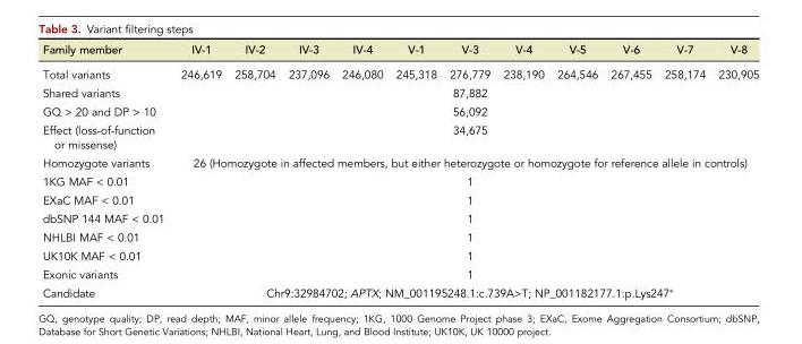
<table><thead><tr><td>Family member</td><td>IV-1</td><td>IV-2</td><td>IV-3</td><td>IV-4</td><td>V-1</td><td>V-3</td><td>V-4</td><td>V-5</td><td>V-6</td><td>V-7</td><td>V-8</td></tr></thead><tbody><tr><td>Total variants</td><td>246,619</td><td>258,704</td><td>237,096</td><td>246,080</td><td>245,318</td><td>276,779</td><td>238,190</td><td>264,546</td><td>267,455</td><td>258,174</td><td>230,905</td></tr><tr><td>Shared variants</td><td colspan="11">87,882</td></tr><tr><td>GQ &gt; 20 and DP &gt; 10</td><td colspan="11">56,092</td></tr><tr><td>Effect (loss-of-function or missense)</td><td colspan="11">34,675</td></tr><tr><td>Homozygote variants</td><td colspan="11">26 (Homozygote in affected members, but either heterozygote or homozygote for reference allele in controls)</td></tr><tr><td>1KG MAF &lt; 0.01</td><td colspan="11">1</td></tr><tr><td>EXaC MAF &lt; 0.01</td><td colspan="11">1</td></tr><tr><td>dbSNP 144 MAF &lt; 0.01</td><td colspan="11">1</td></tr><tr><td>NHLBI MAF &lt; 0.01</td><td colspan="11">1</td></tr><tr><td>UK10K MAF &lt; 0.01</td><td colspan="11">1</td></tr><tr><td>Exonic variants</td><td colspan="11">1</td></tr><tr><td>Candidate</td><td colspan="11">Chr9:32984702; APTX; NM_001195248.1:c.739A&gt;T; NP_001182177.1:p.Lys247∗</td></tr></tbody></table>